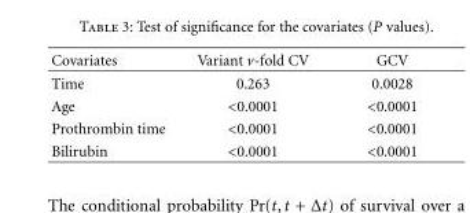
<table><thead><tr><td>Covariates</td><td>Variant v-fold CV</td><td>GCV</td></tr></thead><tbody><tr><td>Time</td><td>0.263</td><td>0.0028</td></tr><tr><td>Age</td><td>&lt;0.0001</td><td>&lt;0.0001</td></tr><tr><td>Prothrombin time</td><td>&lt;0.0001</td><td>&lt;0.0001</td></tr><tr><td>Bilirubin</td><td>&lt;0.0001</td><td>&lt;0.0001</td></tr></tbody></table>